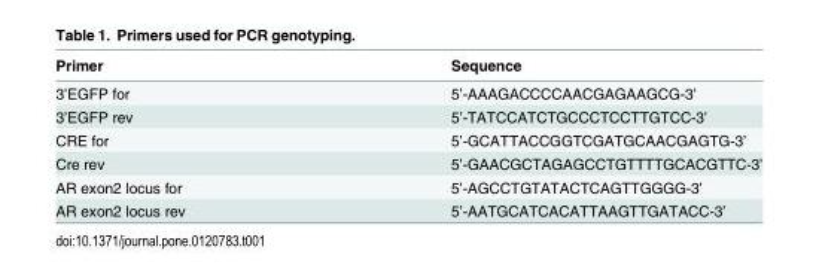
<table><thead><tr><td>Primer</td><td>Sequence</td></tr></thead><tbody><tr><td>3’EGFP for</td><td>5’-AAAGACCCCAACGAGAAGCG-3’</td></tr><tr><td>3’EGFP rev</td><td>5’-TATCCATCTGCCCTCCTTGTCC-3’</td></tr><tr><td>CRE for</td><td>5’-GCATTACCGGTCGATGCAACGAGTG-3’</td></tr><tr><td>Cre rev</td><td>5’-GAACGCTAGAGCCTGTTTTGCACGTTC-3’</td></tr><tr><td>AR exon2 locus for</td><td>5’-AGCCTGTATACTCAGTTGGGG-3’</td></tr><tr><td>AR exon2 locus rev</td><td>5’-AATGCATCACATTAAGTTGATACC-3’</td></tr></tbody></table>